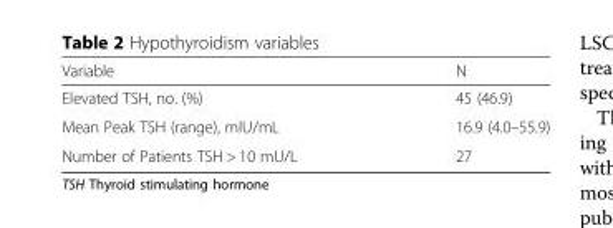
<table><thead><tr><td>Variable</td><td>N</td></tr></thead><tbody><tr><td>Elevated TSH, no. (%)</td><td>45 (46.9)</td></tr><tr><td>Mean Peak TSH (range), mIU/mL</td><td>16.9 (4.0–55.9)</td></tr><tr><td>Number of Patients TSH &gt; 10 mU/L</td><td>27</td></tr></tbody></table>